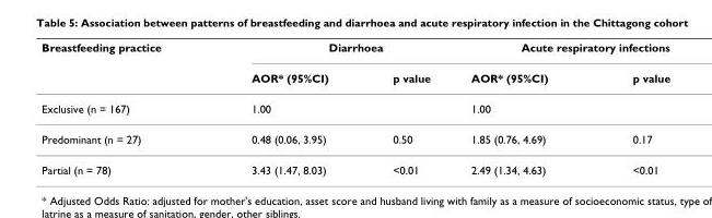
<table><thead><tr><td rowspan="2">Breastfeeding practice</td><td colspan="2">Diarrhoea</td><td colspan="2">Acute respiratory infections</td></tr><tr><td>AOR* (95%CI)</td><td>p value</td><td>AOR* (95%CI)</td><td>p value</td></tr></thead><tbody><tr><td>Exclusive (n = 167)</td><td>1.00</td><td></td><td>1.00</td><td></td></tr><tr><td>Predominant (n = 27)</td><td>0.48 (0.06, 3.95)</td><td>0.50</td><td>1.85 (0.76, 4.69)</td><td>0.17</td></tr><tr><td>Partial (n = 78)</td><td>3.43 (1.47, 8.03)</td><td>&lt;0.01</td><td>2.49 (1.34, 4.63)</td><td>&lt;0.01</td></tr></tbody></table>